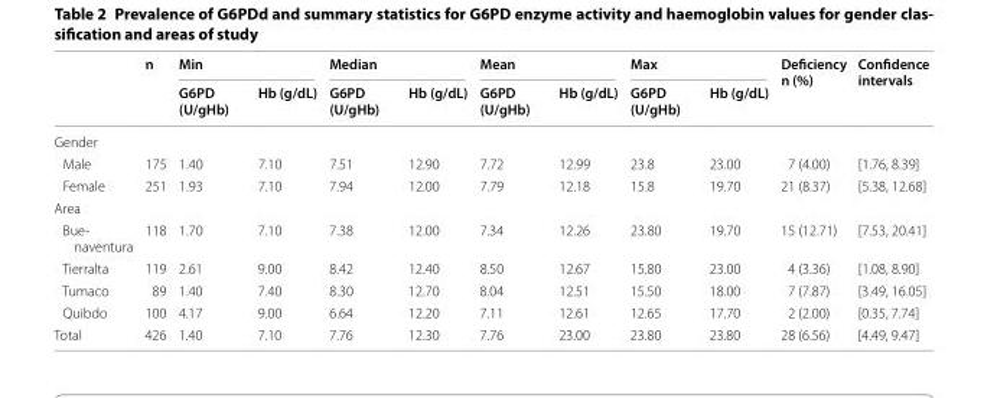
<table><thead><tr><td rowspan="2"></td><td rowspan="2">n</td><td colspan="2">Min</td><td colspan="2">Median</td><td colspan="2">Mean</td><td colspan="2">Max</td><td rowspan="2">Deficiency n (%)</td><td rowspan="2">Confidence intervals</td></tr><tr><td>G6PD (U/gHb)</td><td>Hb (g/dL)</td><td>G6PD (U/gHb)</td><td>Hb (g/dL)</td><td>G6PD (U/gHb)</td><td>Hb (g/dL)</td><td>G6PD (U/gHb)</td><td>Hb (g/dL)</td></tr></thead><tbody><tr><td colspan="12">Gender</td></tr><tr><td>Male</td><td>175</td><td>1.40</td><td>7.10</td><td>7.51</td><td>12.90</td><td>7.72</td><td>12.99</td><td>23.8</td><td>23.00</td><td>7 (4.00)</td><td>[1.76, 8.39]</td></tr><tr><td>Female</td><td>251</td><td>1.93</td><td>7.10</td><td>7.94</td><td>12.00</td><td>7.79</td><td>12.18</td><td>15.8</td><td>19.70</td><td>21 (8.37)</td><td>[5.38, 12.68]</td></tr><tr><td colspan="12">Area</td></tr><tr><td>Bue‑ naventura</td><td>118</td><td>1.70</td><td>7.10</td><td>7.38</td><td>12.00</td><td>7.34</td><td>12.26</td><td>23.80</td><td>19.70</td><td>15 (12.71)</td><td>[7.53, 20.41]</td></tr><tr><td>Tierralta</td><td>119</td><td>2.61</td><td>9.00</td><td>8.42</td><td>12.40</td><td>8.50</td><td>12.67</td><td>15.80</td><td>23.00</td><td>4 (3.36)</td><td>[1.08, 8.90]</td></tr><tr><td>Tumaco</td><td>89</td><td>1.40</td><td>7.40</td><td>8.30</td><td>12.70</td><td>8.04</td><td>12.51</td><td>15.50</td><td>18.00</td><td>7 (7.87)</td><td>[3.49, 16.05]</td></tr><tr><td>Quibdo</td><td>100</td><td>4.17</td><td>9.00</td><td>6.64</td><td>12.20</td><td>7.11</td><td>12.61</td><td>12.65</td><td>17.70</td><td>2 (2.00)</td><td>[0.35, 7.74]</td></tr><tr><td>Total</td><td>426</td><td>1.40</td><td>7.10</td><td>7.76</td><td>12.30</td><td>7.76</td><td>23.00</td><td>23.80</td><td>23.80</td><td>28 (6.56)</td><td>[4.49, 9.47]</td></tr></tbody></table>